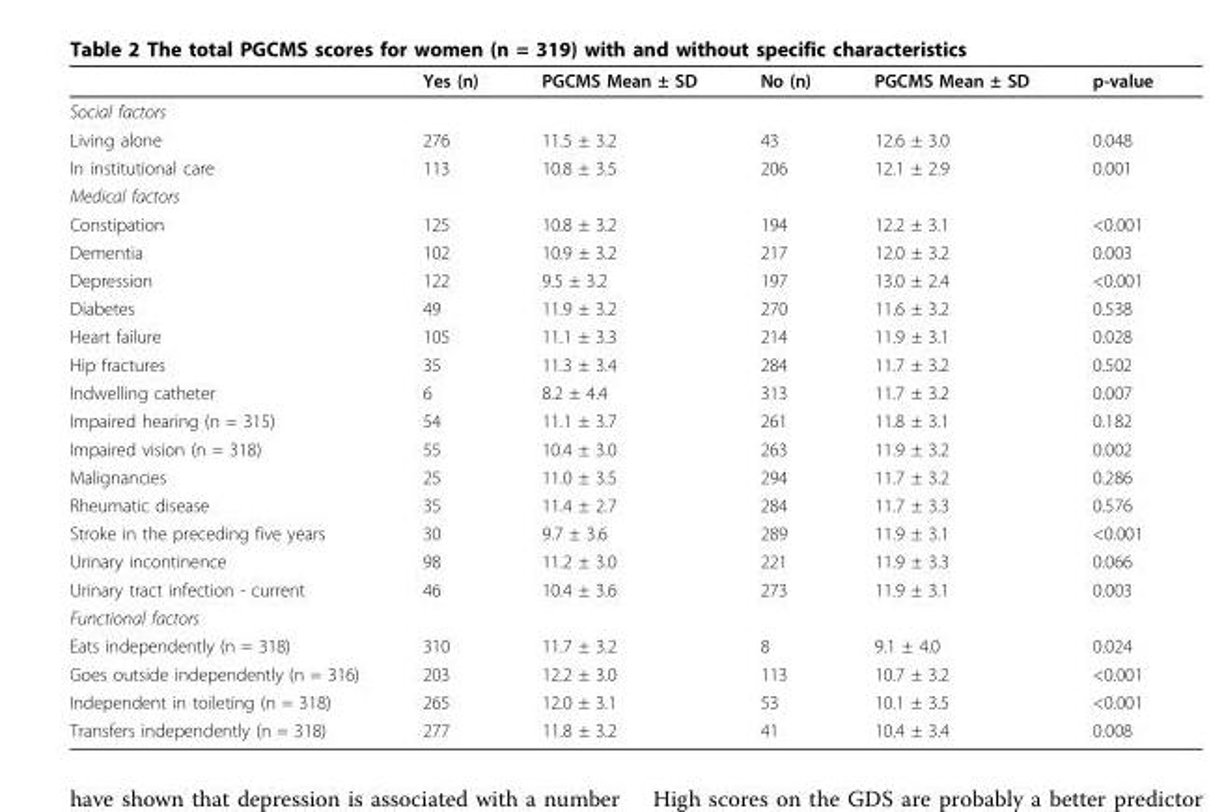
<table><thead><tr><td></td><td>Yes (n)</td><td>PGCMS Mean ± SD</td><td>No (n)</td><td>PGCMS Mean ± SD</td><td>p-value</td></tr></thead><tbody><tr><td colspan="6">Social factors</td></tr><tr><td>Living alone</td><td>276</td><td>11.5 ± 3.2</td><td>43</td><td>12.6 ± 3.0</td><td>0.048</td></tr><tr><td>In institutional care</td><td>113</td><td>10.8 ± 3.5</td><td>206</td><td>12.1 ± 2.9</td><td>0.001</td></tr><tr><td colspan="6">Medical factors</td></tr><tr><td>Constipation</td><td>125</td><td>10.8 ± 3.2</td><td>194</td><td>12.2 ± 3.1</td><td>&lt;0.001</td></tr><tr><td>Dementia</td><td>102</td><td>10.9 ± 3.2</td><td>217</td><td>12.0 ± 3.2</td><td>0.003</td></tr><tr><td>Depression</td><td>122</td><td>9.5 ± 3.2</td><td>197</td><td>13.0 ± 2.4</td><td>&lt;0.001</td></tr><tr><td>Diabetes</td><td>49</td><td>11.9 ± 3.2</td><td>270</td><td>11.6 ± 3.2</td><td>0.538</td></tr><tr><td>Heart failure</td><td>105</td><td>11.1 ± 3.3</td><td>214</td><td>11.9 ± 3.1</td><td>0.028</td></tr><tr><td>Hip fractures</td><td>35</td><td>11.3 ± 3.4</td><td>284</td><td>11.7 ± 3.2</td><td>0.502</td></tr><tr><td>Indwelling catheter</td><td>6</td><td>8.2 ± 4.4</td><td>313</td><td>11.7 ± 3.2</td><td>0.007</td></tr><tr><td>Impaired hearing (n = 315)</td><td>54</td><td>11.1 ± 3.7</td><td>261</td><td>11.8 ± 3.1</td><td>0.182</td></tr><tr><td>Impaired vision (n = 318)</td><td>55</td><td>10.4 ± 3.0</td><td>263</td><td>11.9 ± 3.2</td><td>0.002</td></tr><tr><td>Malignancies</td><td>25</td><td>11.0 ± 3.5</td><td>294</td><td>11.7 ± 3.2</td><td>0.286</td></tr><tr><td>Rheumatic disease</td><td>35</td><td>11.4 ± 2.7</td><td>284</td><td>11.7 ± 3.3</td><td>0.576</td></tr><tr><td>Stroke in the preceding five years</td><td>30</td><td>9.7 ± 3.6</td><td>289</td><td>11.9 ± 3.1</td><td>&lt;0.001</td></tr><tr><td>Urinary incontinence</td><td>98</td><td>11.2 ± 3.0</td><td>221</td><td>11.9 ± 3.3</td><td>0.066</td></tr><tr><td>Urinary tract infection - current</td><td>46</td><td>10.4 ± 3.6</td><td>273</td><td>11.9 ± 3.1</td><td>0.003</td></tr><tr><td colspan="6">Functional factors</td></tr><tr><td>Eats independently (n = 318)</td><td>310</td><td>11.7 ± 3.2</td><td>8</td><td>9.1 ± 4.0</td><td>0.024</td></tr><tr><td>Goes outside independently (n = 316)</td><td>203</td><td>12.2 ± 3.0</td><td>113</td><td>10.7 ± 3.2</td><td>&lt;0.001</td></tr><tr><td>Independent in toileting (n = 318)</td><td>265</td><td>12.0 ± 3.1</td><td>53</td><td>10.1 ± 3.5</td><td>&lt;0.001</td></tr><tr><td>Transfers independently (n = 318)</td><td>277</td><td>11.8 ± 3.2</td><td>41</td><td>10.4 ± 3.4</td><td>0.008</td></tr></tbody></table>